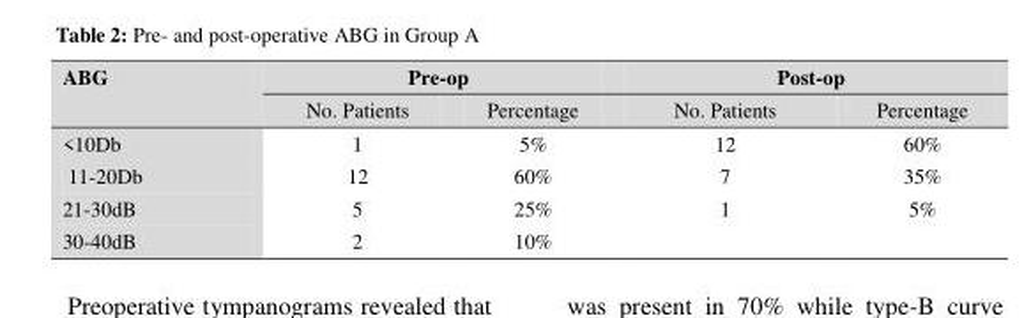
<table><thead><tr><td rowspan="2">ABG</td><td colspan="2">Pre-op</td><td colspan="2">Post-op</td></tr><tr><td>No. Patients</td><td>Percentage</td><td>No. Patients</td><td>Percentage</td></tr></thead><tbody><tr><td>&lt;10Db</td><td>1</td><td>5%</td><td>12</td><td>60%</td></tr><tr><td>11-20Db</td><td>12</td><td>60%</td><td>7</td><td>35%</td></tr><tr><td>21-30dB</td><td>5</td><td>25%</td><td>1</td><td>5%</td></tr><tr><td>30-40dB</td><td>2</td><td>10%</td><td></td><td></td></tr></tbody></table>